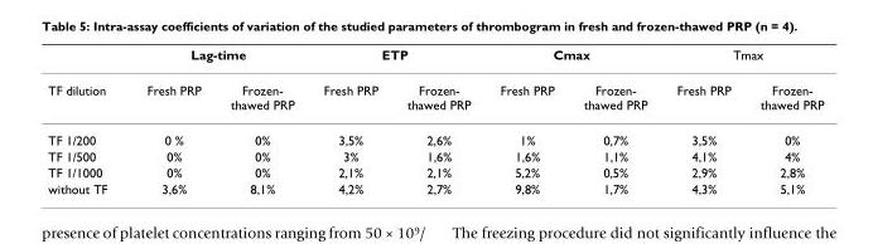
<table><thead><tr><td rowspan="2">TF dilution</td><td colspan="2">Lag-time</td><td colspan="2">ETP</td><td colspan="2">Cmax</td><td colspan="2">Tmax</td></tr><tr><td>Fresh PRP</td><td>Frozen- thawed PRP</td><td>Fresh PRP</td><td>Frozen- thawed PRP</td><td>Fresh PRP</td><td>Frozen- thawed PRP</td><td>Fresh PRP</td><td>Frozen- thawed PRP</td></tr></thead><tbody><tr><td>TF 1/200</td><td>0 %</td><td>0%</td><td>3,5%</td><td>2,6%</td><td>1%</td><td>0,7%</td><td>3,5%</td><td>0%</td></tr><tr><td>TF 1/500</td><td>0%</td><td>0%</td><td>3%</td><td>1,6%</td><td>1,6%</td><td>1,1%</td><td>4,1%</td><td>4%</td></tr><tr><td>TF 1/1000</td><td>0%</td><td>0%</td><td>2,1%</td><td>2,1%</td><td>5,2%</td><td>0,5%</td><td>2,9%</td><td>2,8%</td></tr><tr><td>without TF</td><td>3,6%</td><td>8,1%</td><td>4,2%</td><td>2,7%</td><td>9,8%</td><td>1,7%</td><td>4,3%</td><td>5,1%</td></tr></tbody></table>